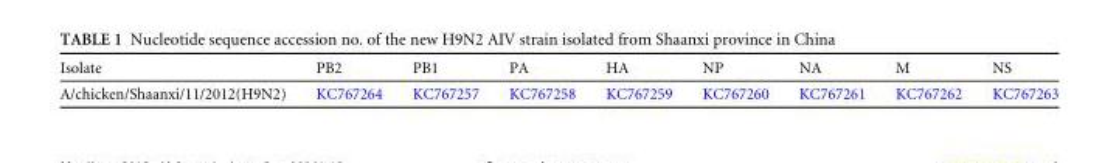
<table><thead><tr><td>Isolate</td><td>PB2</td><td>PB1</td><td>PA</td><td>HA</td><td>NP</td><td>NA</td><td>M</td><td>NS</td></tr></thead><tbody><tr><td>A/chicken/Shaanxi/11/2012(H9N2)</td><td>KC767264</td><td>KC767257</td><td>KC767258</td><td>KC767259</td><td>KC767260</td><td>KC767261</td><td>KC767262</td><td>KC767263</td></tr></tbody></table>